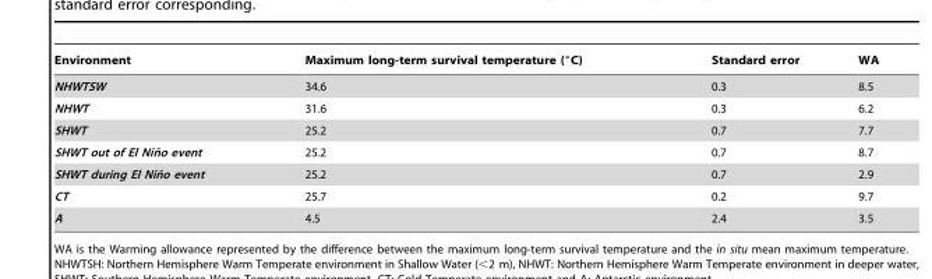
<table><thead><tr><td>Environment</td><td>Maximum long-term survival temperature (°C)</td><td>Standard error</td><td>WA</td></tr></thead><tbody><tr><td>NHWTSW</td><td>34.6</td><td>0.3</td><td>8.5</td></tr><tr><td>NHWT</td><td>31.6</td><td>0.3</td><td>6.2</td></tr><tr><td>SHWT</td><td>25.2</td><td>0.7</td><td>7.7</td></tr><tr><td>SHWT out of El Nin˜o event</td><td>25.2</td><td>0.7</td><td>8.7</td></tr><tr><td>SHWT during El Nin˜o event</td><td>25.2</td><td>0.7</td><td>2.9</td></tr><tr><td>CT</td><td>25.7</td><td>0.2</td><td>9.7</td></tr><tr><td>A</td><td>4.5</td><td>2.4</td><td>3.5</td></tr></tbody></table>